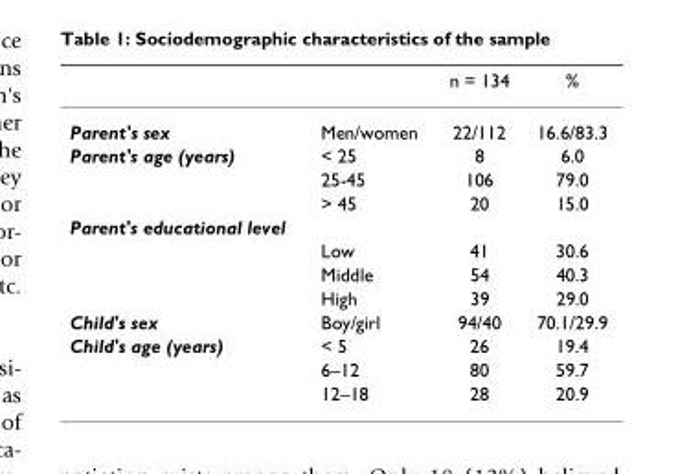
<table><thead><tr><td></td><td></td><td>n = 134</td><td>%</td></tr></thead><tbody><tr><td>Parent&#x27;s sex</td><td>Men/women</td><td>22/112</td><td>16.6/83.3</td></tr><tr><td rowspan="3">Parent&#x27;s age (years)</td><td>&lt; 25</td><td>8</td><td>6.0</td></tr><tr><td>25-45</td><td>106</td><td>79.0</td></tr><tr><td>&gt; 45</td><td>20</td><td>15.0</td></tr><tr><td colspan="4">Parent&#x27;s educational level</td></tr><tr><td></td><td>Low</td><td>41</td><td>30.6</td></tr><tr><td></td><td>Middle</td><td>54</td><td>40.3</td></tr><tr><td></td><td>High</td><td>39</td><td>29.0</td></tr><tr><td>Child&#x27;s sex</td><td>Boy/girl</td><td>94/40</td><td>70.1/29.9</td></tr><tr><td rowspan="3">Child&#x27;s age (years)</td><td>&lt; 5</td><td>26</td><td>19.4</td></tr><tr><td>6–12</td><td>80</td><td>59.7</td></tr><tr><td>12–18</td><td>28</td><td>20.9</td></tr></tbody></table>